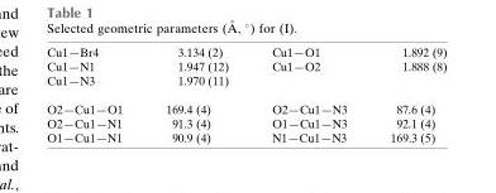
<table><tbody><tr><td>Cu1—Br4</td><td>3.134 (2)</td><td>Cu1—O1</td><td>1.892 (9)</td></tr><tr><td>Cu1—N1</td><td>1.947 (12)</td><td>Cu1—O2</td><td>1.888 (8)</td></tr><tr><td>Cu1—N3</td><td>1.970 (11)</td><td></td><td></td></tr><tr><td>O2—Cu1—O1</td><td>169.4 (4)</td><td>O2—Cu1—N3</td><td>87.6 (4)</td></tr><tr><td>O2—Cu1—N1</td><td>91.3 (4)</td><td>O1—Cu1—N3</td><td>92.1 (4)</td></tr><tr><td>O1—Cu1—N1</td><td>90.9 (4)</td><td>N1—Cu1—N3</td><td>169.3 (5)</td></tr></tbody></table>